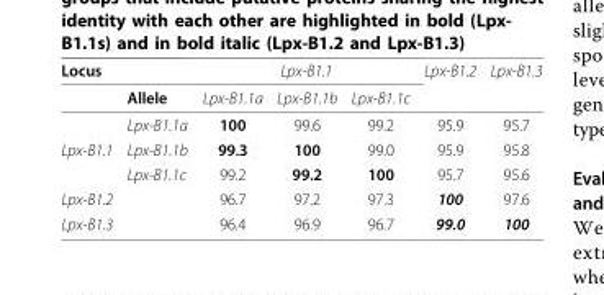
<table><thead><tr><td rowspan="2">Locus</td><td rowspan="2">Allele</td><td colspan="3">Lpx-B1.1</td><td rowspan="2">Lpx-B1.2</td><td rowspan="2">Lpx-B1.3</td></tr><tr><td>Lpx-B1.1a</td><td>Lpx-B1.1b</td><td>Lpx-B1.1c</td></tr></thead><tbody><tr><td></td><td>Lpx-B1.1a</td><td>100</td><td>99.6</td><td>99.2</td><td>95.9</td><td>95.7</td></tr><tr><td rowspan="2">Lpx-B1.1</td><td>Lpx-B1.1b</td><td>99.3</td><td>100</td><td>99.0</td><td>95.9</td><td>95.8</td></tr><tr><td>Lpx-B1.1c</td><td>99.2</td><td>99.2</td><td>100</td><td>95.7</td><td>95.6</td></tr><tr><td>Lpx-B1.2</td><td></td><td>96.7</td><td>97.2</td><td>97.3</td><td>100</td><td>97.6</td></tr><tr><td>Lpx-B1.3</td><td></td><td>96.4</td><td>96.9</td><td>96.7</td><td>99.0</td><td>100</td></tr></tbody></table>